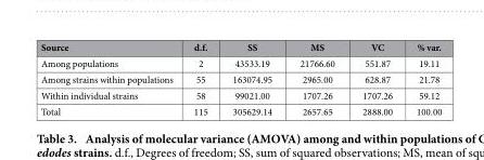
<table><thead><tr><td>Source</td><td>d.f.</td><td>SS</td><td>MS</td><td>VC</td><td>% var.</td></tr></thead><tbody><tr><td>Among populations</td><td>2</td><td>43533.19</td><td>21766.60</td><td>551.87</td><td>19.11</td></tr><tr><td>Among strains within populations</td><td>55</td><td>163074.95</td><td>2965.00</td><td>628.87</td><td>21.78</td></tr><tr><td>Within individual strains</td><td>58</td><td>99021.00</td><td>1707.26</td><td>1707.26</td><td>59.12</td></tr><tr><td>Total</td><td>115</td><td>305629.14</td><td>2657.65</td><td>2888.00</td><td>100.00</td></tr></tbody></table>